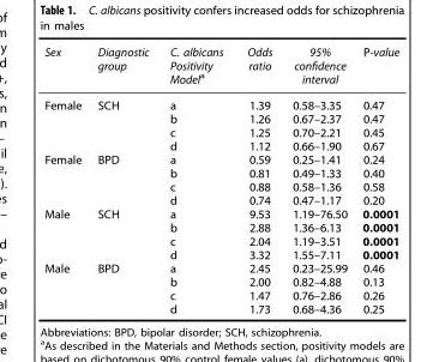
<table><thead><tr><td>Sex</td><td>Diagnostic group</td><td>C. albicans Positivity Model<sup>a</sup></td><td>Odds ratio</td><td>95% confidence interval</td><td>P-value</td></tr></thead><tbody><tr><td rowspan="4">Female</td><td>SCH</td><td>a</td><td>1.39</td><td>0.58–3.35</td><td>0.47</td></tr><tr><td></td><td>b</td><td>1.26</td><td>0.67–2.37</td><td>0.47</td></tr><tr><td></td><td>c</td><td>1.25</td><td>0.70–2.21</td><td>0.45</td></tr><tr><td></td><td>d</td><td>1.12</td><td>0.66–1.90</td><td>0.67</td></tr><tr><td rowspan="4">Female</td><td>BPD</td><td>a</td><td>0.59</td><td>0.25–1.41</td><td>0.24</td></tr><tr><td></td><td>b</td><td>0.81</td><td>0.49–1.33</td><td>0.40</td></tr><tr><td></td><td>c</td><td>0.88</td><td>0.58–1.36</td><td>0.58</td></tr><tr><td></td><td>d</td><td>0.74</td><td>0.47–1.17</td><td>0.20</td></tr><tr><td rowspan="4">Male</td><td>SCH</td><td>a</td><td>9.53</td><td>1.19–76.50</td><td>0.0001</td></tr><tr><td></td><td>b</td><td>2.88</td><td>1.36–6.13</td><td>0.0001</td></tr><tr><td></td><td>c</td><td>2.04</td><td>1.19–3.51</td><td>0.0001</td></tr><tr><td></td><td>d</td><td>3.32</td><td>1.55–7.11</td><td>0.0001</td></tr><tr><td rowspan="4">Male</td><td>BPD</td><td>a</td><td>2.45</td><td>0.23–25.99</td><td>0.46</td></tr><tr><td></td><td>b</td><td>2.00</td><td>0.82–4.88</td><td>0.13</td></tr><tr><td></td><td>c</td><td>1.47</td><td>0.76–2.86</td><td>0.26</td></tr><tr><td></td><td>d</td><td>1.73</td><td>0.68–4.36</td><td>0.25</td></tr></tbody></table>